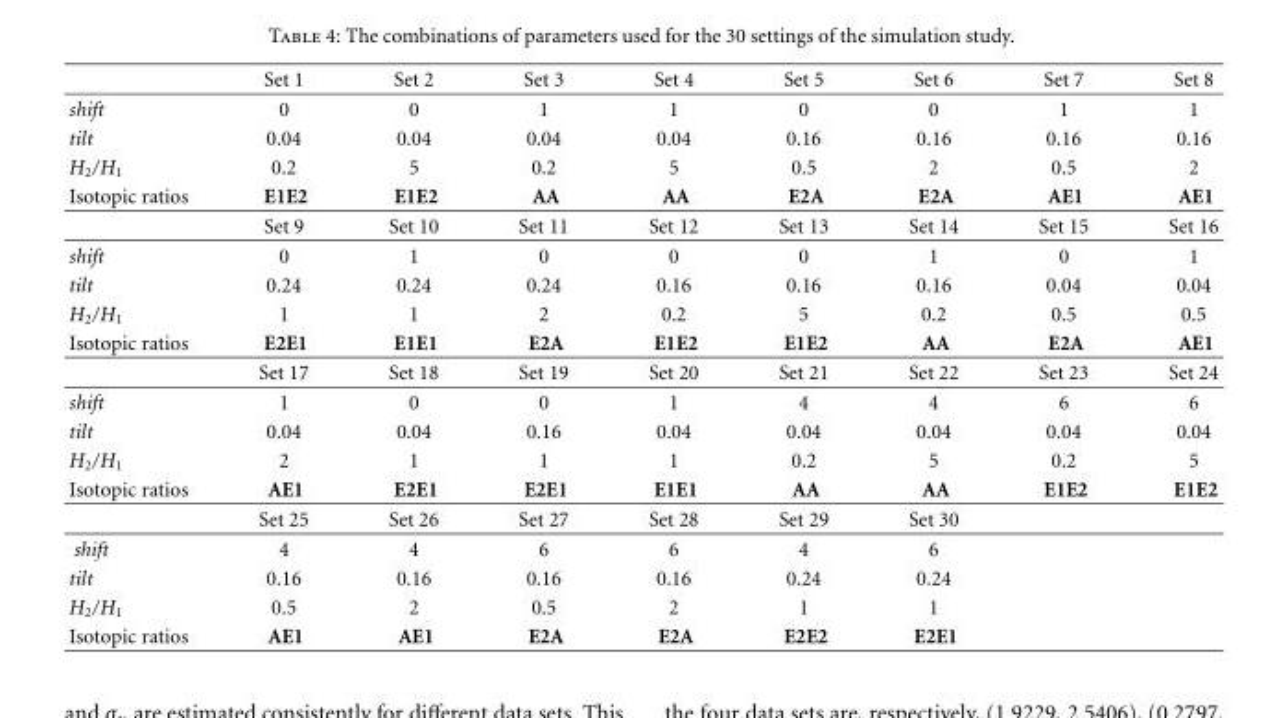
<table><thead><tr><td></td><td>Set 1</td><td>Set 2</td><td>Set 3</td><td>Set 4</td><td>Set 5</td><td>Set 6</td><td>Set 7</td><td>Set 8</td></tr></thead><tbody><tr><td>shift</td><td>0</td><td>0</td><td>1</td><td>1</td><td>0</td><td>0</td><td>1</td><td>1</td></tr><tr><td>tilt</td><td>0.04</td><td>0.04</td><td>0.04</td><td>0.04</td><td>0.16</td><td>0.16</td><td>0.16</td><td>0.16</td></tr><tr><td>H<sub>2</sub>/H<sub>1</sub></td><td>0.2</td><td>5</td><td>0.2</td><td>5</td><td>0.5</td><td>2</td><td>0.5</td><td>2</td></tr><tr><td rowspan="2">Isotopic ratios</td><td>E1E2</td><td>E1E2</td><td>AA</td><td>AA</td><td>E2A</td><td>E2A</td><td>AE1</td><td>AE1</td></tr><tr><td>Set 9</td><td>Set 10</td><td>Set 11</td><td>Set 12</td><td>Set 13</td><td>Set 14</td><td>Set 15</td><td>Set 16</td></tr><tr><td>shift</td><td>0</td><td>1</td><td>0</td><td>0</td><td>0</td><td>1</td><td>0</td><td>1</td></tr><tr><td>tilt</td><td>0.24</td><td>0.24</td><td>0.24</td><td>0.16</td><td>0.16</td><td>0.16</td><td>0.04</td><td>0.04</td></tr><tr><td>H<sub>2</sub>/H<sub>1</sub></td><td>1</td><td>1</td><td>2</td><td>0.2</td><td>5</td><td>0.2</td><td>0.5</td><td>0.5</td></tr><tr><td rowspan="2">Isotopic ratios</td><td>E2E1</td><td>E1E1</td><td>E2A</td><td>E1E2</td><td>E1E2</td><td>AA</td><td>E2A</td><td>AE1</td></tr><tr><td>Set 17</td><td>Set 18</td><td>Set 19</td><td>Set 20</td><td>Set 21</td><td>Set 22</td><td>Set 23</td><td>Set 24</td></tr><tr><td>shift</td><td>1</td><td>0</td><td>0</td><td>1</td><td>4</td><td>4</td><td>6</td><td>6</td></tr><tr><td>tilt</td><td>0.04</td><td>0.04</td><td>0.16</td><td>0.04</td><td>0.04</td><td>0.04</td><td>0.04</td><td>0.04</td></tr><tr><td>H<sub>2</sub>/H<sub>1</sub></td><td>2</td><td>1</td><td>1</td><td>1</td><td>0.2</td><td>5</td><td>0.2</td><td>5</td></tr><tr><td rowspan="2">Isotopic ratios</td><td>AE1</td><td>E2E1</td><td>E2E1</td><td>E1E1</td><td>AA</td><td>AA</td><td>E1E2</td><td>E1E2</td></tr><tr><td>Set 25</td><td>Set 26</td><td>Set 27</td><td>Set 28</td><td>Set 29</td><td>Set 30</td><td></td><td></td></tr><tr><td>shift</td><td>4</td><td>4</td><td>6</td><td>6</td><td>4</td><td>6</td><td></td><td></td></tr><tr><td>tilt</td><td>0.16</td><td>0.16</td><td>0.16</td><td>0.16</td><td>0.24</td><td>0.24</td><td></td><td></td></tr><tr><td>H<sub>2</sub>/H<sub>1</sub></td><td>0.5</td><td>2</td><td>0.5</td><td>2</td><td>1</td><td>1</td><td></td><td></td></tr><tr><td>Isotopic ratios</td><td>AE1</td><td>AE1</td><td>E2A</td><td>E2A</td><td>E2E2</td><td>E2E1</td><td></td><td></td></tr></tbody></table>